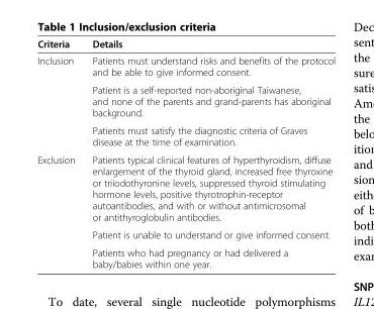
<table><thead><tr><td>Criteria</td><td>Details</td></tr></thead><tbody><tr><td rowspan="3">Inclusion</td><td>Patients must understand risks and benefits of the protocol and be able to give informed consent.</td></tr><tr><td>Patient is a self-reported non-aboriginal Taiwanese, and none of the parents and grand-parents has aboriginal background.</td></tr><tr><td>Patients must satisfy the diagnostic criteria of Graves disease at the time of examination.</td></tr><tr><td rowspan="3">Exclusion</td><td>Patients typical clinical features of hyperthyroidism, diffuse enlargement of the thyroid gland, increased free thyroxine or triiodothyronine levels, suppressed thyroid stimulating hormone levels, positive thyrotrophin-receptor autoantibodies, and with or without antimicrosomal or antithyroglobulin antibodies.</td></tr><tr><td>Patient is unable to understand or give informed consent.</td></tr><tr><td>Patients who had pregnancy or had delivered a baby/babies within one year.</td></tr></tbody></table>